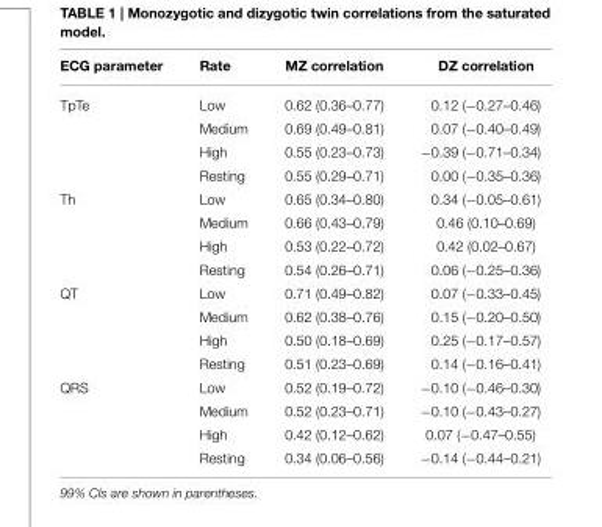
<table><thead><tr><td>ECG parameter</td><td>Rate</td><td>MZ correlation</td><td>DZ correlation</td></tr></thead><tbody><tr><td rowspan="4">TpTe</td><td>Low</td><td>0.62 (0.36–0.77)</td><td>0.12 (−0.27–0.46)</td></tr><tr><td>Medium</td><td>0.69 (0.49–0.81)</td><td>0.07 (−0.40–0.49)</td></tr><tr><td>High</td><td>0.55 (0.23–0.73)</td><td>−0.39 (−0.71–0.34)</td></tr><tr><td>Resting</td><td>0.55 (0.29–0.71)</td><td>0.00 (−0.35–0.36)</td></tr><tr><td rowspan="4">Th</td><td>Low</td><td>0.65 (0.34–0.80)</td><td>0.34 (−0.05–0.61)</td></tr><tr><td>Medium</td><td>0.66 (0.43–0.79)</td><td>0.46 (0.10–0.69)</td></tr><tr><td>High</td><td>0.53 (0.22–0.72)</td><td>0.42 (0.02–0.67)</td></tr><tr><td>Resting</td><td>0.54 (0.26–0.71)</td><td>0.06 (−0.25–0.36)</td></tr><tr><td rowspan="4">QT</td><td>Low</td><td>0.71 (0.49–0.82)</td><td>0.07 (−0.33–0.45)</td></tr><tr><td>Medium</td><td>0.62 (0.38–0.76)</td><td>0.15 (−0.20–0.50)</td></tr><tr><td>High</td><td>0.50 (0.18–0.69)</td><td>0.25 (−0.17–0.57)</td></tr><tr><td>Resting</td><td>0.51 (0.23–0.69)</td><td>0.14 (−0.16–0.41)</td></tr><tr><td rowspan="4">QRS</td><td>Low</td><td>0.52 (0.19–0.72)</td><td>−0.10 (−0.46–0.30)</td></tr><tr><td>Medium</td><td>0.52 (0.23–0.71)</td><td>−0.10 (−0.43–0.27)</td></tr><tr><td>High</td><td>0.42 (0.12–0.62)</td><td>0.07 (−0.47–0.55)</td></tr><tr><td>Resting</td><td>0.34 (0.06–0.56)</td><td>−0.14 (−0.44–0.21)</td></tr></tbody></table>